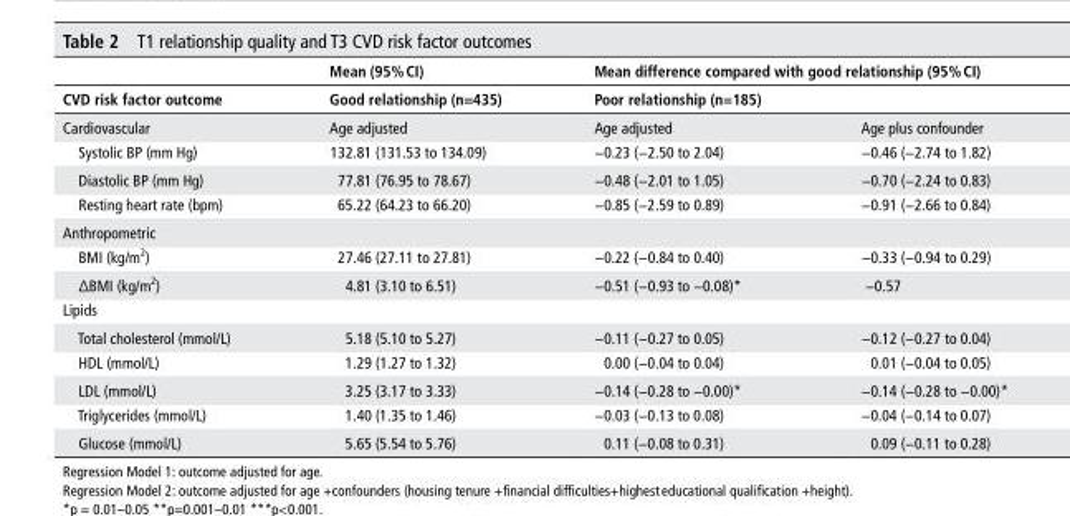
<table><thead><tr><td rowspan="3">cVd risk factor outcome Cardiovascular</td><td rowspan="3">Mean (95% cI) good relationship (n=435) Age adjusted</td><td rowspan="2" colspan="2">Mean difference compared with good relationship (95% cI) Poor relationship (n=185)</td></tr><tr></tr><tr><td>Age adjusted</td><td>Age plus confounder</td></tr></thead><tbody><tr><td>Systolic BP (mm Hg)</td><td>132.81 (131.53 to 134.09)</td><td>−0.23 (−2.50 to 2.04)</td><td>−0.46 (−2.74 to 1.82)</td></tr><tr><td>Diastolic BP (mm Hg)</td><td>77.81 (76.95 to 78.67)</td><td>−0.48 (−2.01 to 1.05)</td><td>−0.70 (−2.24 to 0.83)</td></tr><tr><td>Resting heart rate (bpm)</td><td>65.22 (64.23 to 66.20)</td><td>−0.85 (−2.59 to 0.89)</td><td>−0.91 (−2.66 to 0.84)</td></tr><tr><td colspan="4">Anthropometric</td></tr><tr><td>BMI (kg/m<sup>2</sup>)</td><td>27.46 (27.11 to 27.81)</td><td>−0.22 (−0.84 to 0.40)</td><td>−0.33 (−0.94 to 0.29)</td></tr><tr><td>∆BMI (kg/m<sup>2</sup>)</td><td>4.81 (3.10 to 6.51)</td><td>−0.51 (−0.93 to −0.08)*</td><td>−0.57</td></tr><tr><td colspan="4">Lipids</td></tr><tr><td>Total cholesterol (mmol/L)</td><td>5.18 (5.10 to 5.27)</td><td>−0.11 (−0.27 to 0.05)</td><td>−0.12 (−0.27 to 0.04)</td></tr><tr><td>HDL (mmol/L)</td><td>1.29 (1.27 to 1.32)</td><td>0.00 (−0.04 to 0.04)</td><td>0.01 (−0.04 to 0.05)</td></tr><tr><td>LDL (mmol/L)</td><td>3.25 (3.17 to 3.33)</td><td>−0.14 (−0.28 to −0.00)*</td><td>−0.14 (−0.28 to −0.00)*</td></tr><tr><td>Triglycerides (mmol/L)</td><td>1.40 (1.35 to 1.46)</td><td>−0.03 (−0.13 to 0.08)</td><td>−0.04 (−0.14 to 0.07)</td></tr><tr><td>Glucose (mmol/L)</td><td>5.65 (5.54 to 5.76)</td><td>0.11 (−0.08 to 0.31)</td><td>0.09 (−0.11 to 0.28)</td></tr></tbody></table>